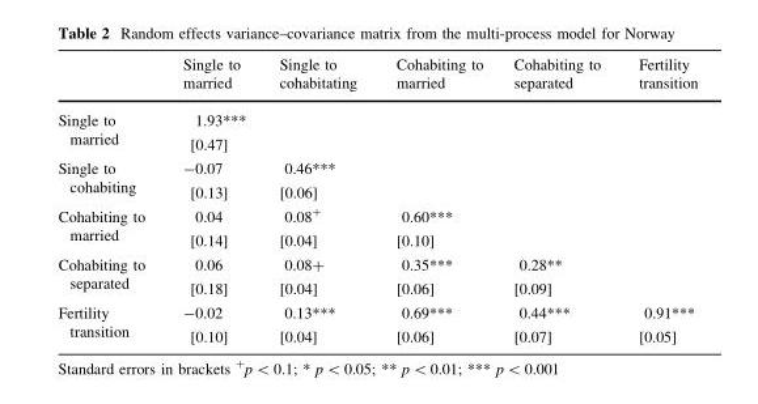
<table><thead><tr><td></td><td>Single to married</td><td>Single to cohabitating</td><td>Cohabiting to married</td><td>Cohabiting to separated</td><td>Fertility transition</td></tr></thead><tbody><tr><td rowspan="2">Single to married</td><td>1.93***</td><td></td><td></td><td></td><td></td></tr><tr><td>[0.47]</td><td></td><td></td><td></td><td></td></tr><tr><td rowspan="2">Single to cohabiting</td><td>-0.07</td><td>0.46***</td><td></td><td></td><td></td></tr><tr><td>[0.13]</td><td>[0.06]</td><td></td><td></td><td></td></tr><tr><td rowspan="2">Cohabiting to married</td><td>0.04</td><td>0.08<sup>+</sup></td><td>0.60***</td><td></td><td></td></tr><tr><td>[0.14]</td><td>[0.04]</td><td>[0.10]</td><td></td><td></td></tr><tr><td rowspan="2">Cohabiting to separated</td><td>0.06</td><td>0.08+</td><td>0.35***</td><td>0.28**</td><td></td></tr><tr><td>[0.18]</td><td>[0.04]</td><td>[0.06]</td><td>[0.09]</td><td></td></tr><tr><td rowspan="2">Fertility transition</td><td>-0.02</td><td>0.13***</td><td>0.69***</td><td>0.44***</td><td>0.91***</td></tr><tr><td>[0.10]</td><td>[0.04]</td><td>[0.06]</td><td>[0.07]</td><td>[0.05]</td></tr></tbody></table>